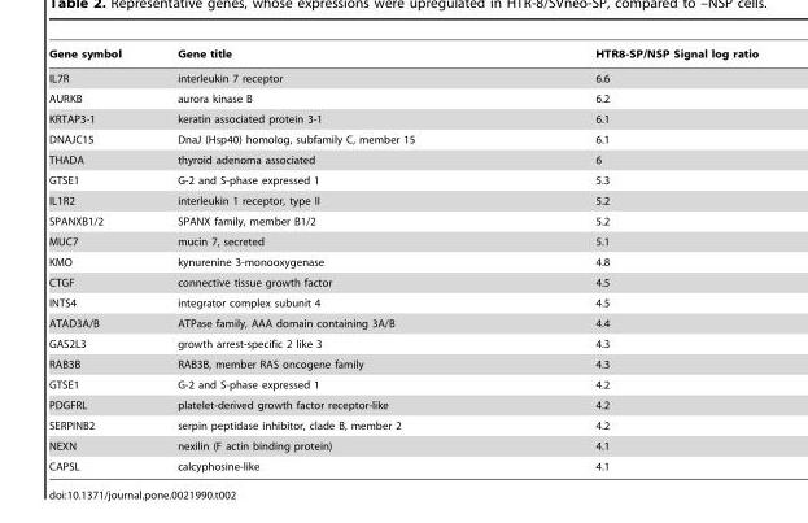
<table><thead><tr><td>Gene symbol</td><td>Gene title</td><td>HTR8-SP/NSP Signal log ratio</td></tr></thead><tbody><tr><td>IL7R</td><td>interleukin 7 receptor</td><td>6.6</td></tr><tr><td>AURKB</td><td>aurora kinase B</td><td>6.2</td></tr><tr><td>KRTAP3-1</td><td>keratin associated protein 3-1</td><td>6.1</td></tr><tr><td>DNAJC15</td><td>DnaJ (Hsp40) homolog, subfamily C, member 15</td><td>6.1</td></tr><tr><td>THADA</td><td>thyroid adenoma associated</td><td>6</td></tr><tr><td>GTSE1</td><td>G-2 and S-phase expressed 1</td><td>5.3</td></tr><tr><td>IL1R2</td><td>interleukin 1 receptor, type II</td><td>5.2</td></tr><tr><td>SPANXB1/2</td><td>SPANX family, member B1/2</td><td>5.2</td></tr><tr><td>MUC7</td><td>mucin 7, secreted</td><td>5.1</td></tr><tr><td>KMO</td><td>kynurenine 3-monooxygenase</td><td>4.8</td></tr><tr><td>CTGF</td><td>connective tissue growth factor</td><td>4.5</td></tr><tr><td>INTS4</td><td>integrator complex subunit 4</td><td>4.5</td></tr><tr><td>ATAD3A/B</td><td>ATPase family, AAA domain containing 3A/B</td><td>4.4</td></tr><tr><td>GAS2L3</td><td>growth arrest-specific 2 like 3</td><td>4.3</td></tr><tr><td>RAB3B</td><td>RAB3B, member RAS oncogene family</td><td>4.3</td></tr><tr><td>GTSE1</td><td>G-2 and S-phase expressed 1</td><td>4.2</td></tr><tr><td>PDGFRL</td><td>platelet-derived growth factor receptor-like</td><td>4.2</td></tr><tr><td>SERPINB2</td><td>serpin peptidase inhibitor, clade B, member 2</td><td>4.2</td></tr><tr><td>NEXN</td><td>nexilin (F actin binding protein)</td><td>4.1</td></tr><tr><td>CAPSL</td><td>calcyphosine-like</td><td>4.1</td></tr></tbody></table>